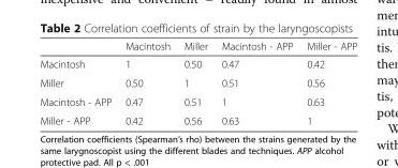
<table><thead><tr><td></td><td>Macintosh</td><td>Miller</td><td>Macintosh - APP</td><td>Miller - APP</td></tr></thead><tbody><tr><td>Macintosh</td><td>1</td><td>0.50</td><td>0.47</td><td>0.42</td></tr><tr><td>Miller</td><td>0.50</td><td>1</td><td>0.51</td><td>0.56</td></tr><tr><td>Macintosh - APP</td><td>0.47</td><td>0.51</td><td>1</td><td>0.63</td></tr><tr><td>Miller - APP</td><td>0.42</td><td>0.56</td><td>0.63</td><td>1</td></tr></tbody></table>